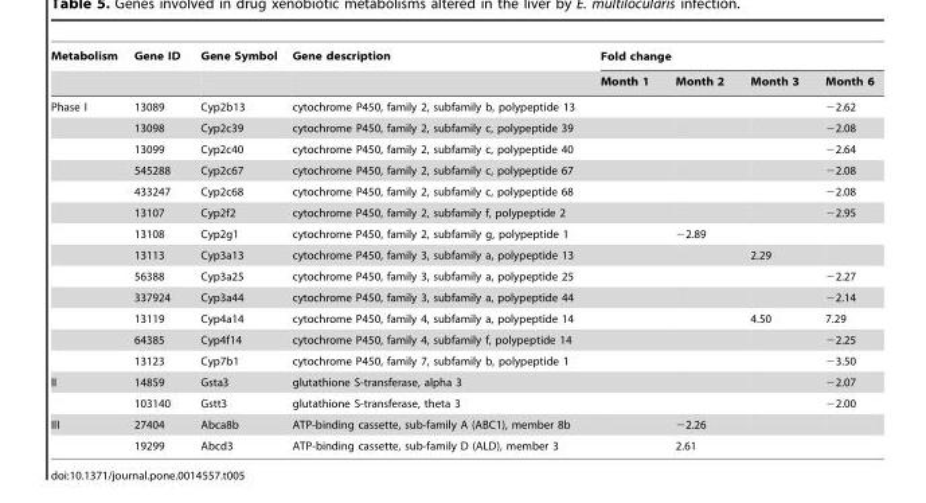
<table><thead><tr><td rowspan="2">Metabolism</td><td rowspan="2">Gene ID</td><td rowspan="2">Gene Symbol</td><td rowspan="2">Gene description</td><td colspan="4">Fold change</td></tr><tr><td>Month 1</td><td>Month 2</td><td>Month 3</td><td>Month 6</td></tr></thead><tbody><tr><td rowspan="13">Phase I</td><td>13089</td><td>Cyp2b13</td><td>cytochrome P450, family 2, subfamily b, polypeptide 13</td><td></td><td></td><td></td><td>−2.62</td></tr><tr><td>13098</td><td>Cyp2c39</td><td>cytochrome P450, family 2, subfamily c, polypeptide 39</td><td></td><td></td><td></td><td>−2.08</td></tr><tr><td>13099</td><td>Cyp2c40</td><td>cytochrome P450, family 2, subfamily c, polypeptide 40</td><td></td><td></td><td></td><td>−2.64</td></tr><tr><td>545288</td><td>Cyp2c67</td><td>cytochrome P450, family 2, subfamily c, polypeptide 67</td><td></td><td></td><td></td><td>−2.08</td></tr><tr><td>433247</td><td>Cyp2c68</td><td>cytochrome P450, family 2, subfamily c, polypeptide 68</td><td></td><td></td><td></td><td>−2.08</td></tr><tr><td>13107</td><td>Cyp2f2</td><td>cytochrome P450, family 2, subfamily f, polypeptide 2</td><td></td><td></td><td></td><td>−2.95</td></tr><tr><td>13108</td><td>Cyp2g1</td><td>cytochrome P450, family 2, subfamily g, polypeptide 1</td><td></td><td>−2.89</td><td></td><td></td></tr><tr><td>13113</td><td>Cyp3a13</td><td>cytochrome P450, family 3, subfamily a, polypeptide 13</td><td></td><td></td><td>2.29</td><td></td></tr><tr><td>56388</td><td>Cyp3a25</td><td>cytochrome P450, family 3, subfamily a, polypeptide 25</td><td></td><td></td><td></td><td>−2.27</td></tr><tr><td>337924</td><td>Cyp3a44</td><td>cytochrome P450, family 3, subfamily a, polypeptide 44</td><td></td><td></td><td></td><td>−2.14</td></tr><tr><td>13119</td><td>Cyp4a14</td><td>cytochrome P450, family 4, subfamily a, polypeptide 14</td><td></td><td></td><td>4.50</td><td>7.29</td></tr><tr><td>64385</td><td>Cyp4f14</td><td>cytochrome P450, family 4, subfamily f, polypeptide 14</td><td></td><td></td><td></td><td>−2.25</td></tr><tr><td>13123</td><td>Cyp7b1</td><td>cytochrome P450, family 7, subfamily b, polypeptide 1</td><td></td><td></td><td></td><td>−3.50</td></tr><tr><td rowspan="2">II</td><td>14859</td><td>Gsta3</td><td>glutathione S-transferase, alpha 3</td><td></td><td></td><td></td><td>−2.07</td></tr><tr><td>103140</td><td>Gstt3</td><td>glutathione S-transferase, theta 3</td><td></td><td></td><td></td><td>−2.00</td></tr><tr><td rowspan="2">III</td><td>27404</td><td>Abca8b</td><td>ATP-binding cassette, sub-family A (ABC1), member 8b</td><td></td><td>−2.26</td><td></td><td></td></tr><tr><td>19299</td><td>Abcd3</td><td>ATP-binding cassette, sub-family D (ALD), member 3</td><td></td><td>2.61</td><td></td><td></td></tr></tbody></table>